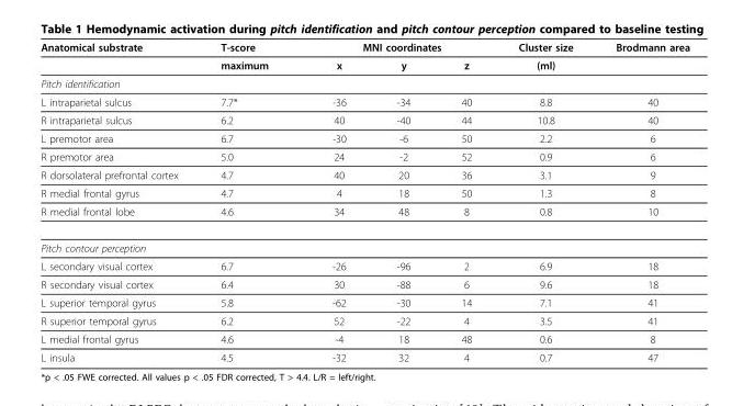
<table><thead><tr><td rowspan="2">Anatomical substrate</td><td rowspan="2">T-score maximum</td><td colspan="3">MNI coordinates</td><td rowspan="2">Cluster size (ml)</td><td rowspan="2">Brodmann area</td></tr><tr><td>x</td><td>y</td><td>z</td></tr></thead><tbody><tr><td colspan="7">Pitch identification</td></tr><tr><td>L intraparietal sulcus</td><td>7.7*</td><td>-36</td><td>-34</td><td>40</td><td>8.8</td><td>40</td></tr><tr><td>R intraparietal sulcus</td><td>6.2</td><td>40</td><td>-40</td><td>44</td><td>10.8</td><td>40</td></tr><tr><td>L premotor area</td><td>6.7</td><td>-30</td><td>-6</td><td>50</td><td>2.2</td><td>6</td></tr><tr><td>R premotor area</td><td>5.0</td><td>24</td><td>-2</td><td>52</td><td>0.9</td><td>6</td></tr><tr><td>R dorsolateral prefrontal cortex</td><td>4.7</td><td>40</td><td>20</td><td>36</td><td>3.1</td><td>9</td></tr><tr><td>R medial frontal gyrus</td><td>4.7</td><td>4</td><td>18</td><td>50</td><td>1.3</td><td>8</td></tr><tr><td>R medial frontal lobe</td><td>4.6</td><td>34</td><td>48</td><td>8</td><td>0.8</td><td>10</td></tr><tr><td colspan="7">Pitch contour perception</td></tr><tr><td>L secondary visual cortex</td><td>6.7</td><td>-26</td><td>-96</td><td>2</td><td>6.9</td><td>18</td></tr><tr><td>R secondary visual cortex</td><td>6.4</td><td>30</td><td>-88</td><td>6</td><td>9.6</td><td>18</td></tr><tr><td>L superior temporal gyrus</td><td>5.8</td><td>-62</td><td>-30</td><td>14</td><td>7.1</td><td>41</td></tr><tr><td>R superior temporal gyrus</td><td>6.2</td><td>52</td><td>-22</td><td>4</td><td>3.5</td><td>41</td></tr><tr><td>L medial frontal gyrus</td><td>4.6</td><td>-4</td><td>18</td><td>48</td><td>0.6</td><td>8</td></tr><tr><td>L insula</td><td>4.5</td><td>-32</td><td>32</td><td>4</td><td>0.7</td><td>47</td></tr></tbody></table>